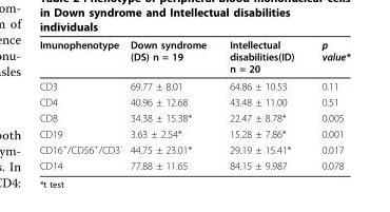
<table><thead><tr><td>Imunophenotype</td><td>Down syndrome (DS) n = 19</td><td>Intellectual disabilities(ID) n = 20</td><td>p value*</td></tr></thead><tbody><tr><td>CD3</td><td>69.77 ± 8.01</td><td>64.86 ± 10.53</td><td>0.11</td></tr><tr><td>CD4</td><td>40.96 ± 12.68</td><td>43.48 ± 11.00</td><td>0.51</td></tr><tr><td>CD8</td><td>34.38 ± 15.38*</td><td>22.47 ± 8.78*</td><td>0.005</td></tr><tr><td>CD19</td><td>3.63 ± 2.54*</td><td>15.28 ± 7.86*</td><td>0.001</td></tr><tr><td>CD16<sup>+</sup>/CD56<sup>+</sup>/CD3<sup>-</sup></td><td>44.75 ± 23.01*</td><td>29.19 ± 15.41*</td><td>0.017</td></tr><tr><td>CD14</td><td>77.88 ± 11.65</td><td>84.15 ± 9.987</td><td>0.078</td></tr></tbody></table>